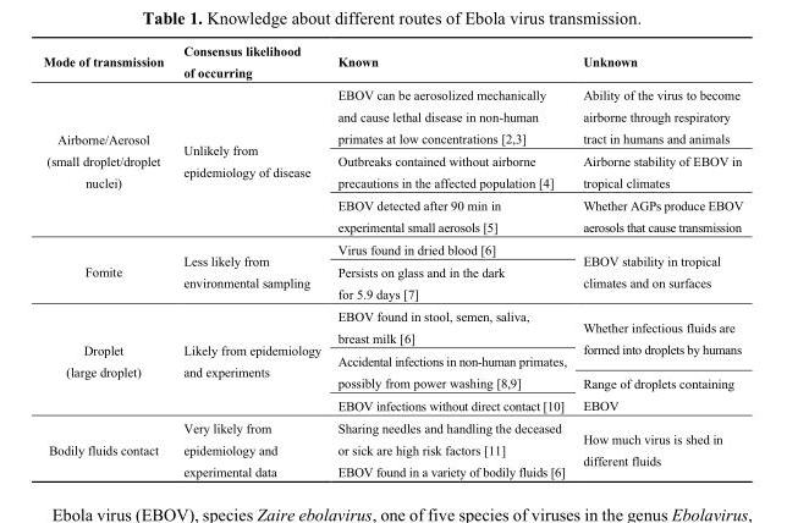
<table><thead><tr><td>Mode of transmission</td><td>Consensus likelihood of occurring</td><td>Known</td><td>Unknown</td></tr></thead><tbody><tr><td rowspan="3">Airborne/Aerosol (small droplet/droplet nuclei)</td><td rowspan="3">Unlikely from epidemiology of disease</td><td>EBOV can be aerosolized mechanically and cause lethal disease in non-human primates at low concentrations [2,3]</td><td>Ability of the virus to become airborne through respiratory tract in humans and animals</td></tr><tr><td>Outbreaks contained without airborne precautions in the affected population [4]</td><td>Airborne stability of EBOV in tropical climates</td></tr><tr><td>EBOV detected after 90 min in experimental small aerosols [5]</td><td>Whether AGPs produce EBOV aerosols that cause transmission</td></tr><tr><td rowspan="2">Fomite</td><td rowspan="2">Less likely from environmental sampling</td><td>Virus found in dried blood [6]</td><td rowspan="2">EBOV stability in tropical climates and on surfaces</td></tr><tr><td>Persists on glass and in the dark for 5.9 days [7]</td></tr><tr><td rowspan="4">Droplet (large droplet)</td><td rowspan="4">Likely from epidemiology and experiments</td><td>EBOV found in stool, semen, saliva, breast milk [6]</td><td rowspan="2">Whether infectious fluids are formed into droplets by humans</td></tr><tr><td rowspan="2">Accidental infections in non-human primates, possibly from power washing [8,9]</td></tr><tr><td rowspan="2">Range of droplets containing EBOV</td></tr><tr><td>EBOV infections without direct contact [10]</td></tr><tr><td rowspan="2">Bodily fluids contact</td><td rowspan="2">Very likely from epidemiology and experimental data</td><td>Sharing needles and handling the deceased or sick are high risk factors [11]</td><td rowspan="2">How much virus is shed in different fluids</td></tr><tr><td>EBOV found in a variety of bodily fluids [6]</td></tr></tbody></table>